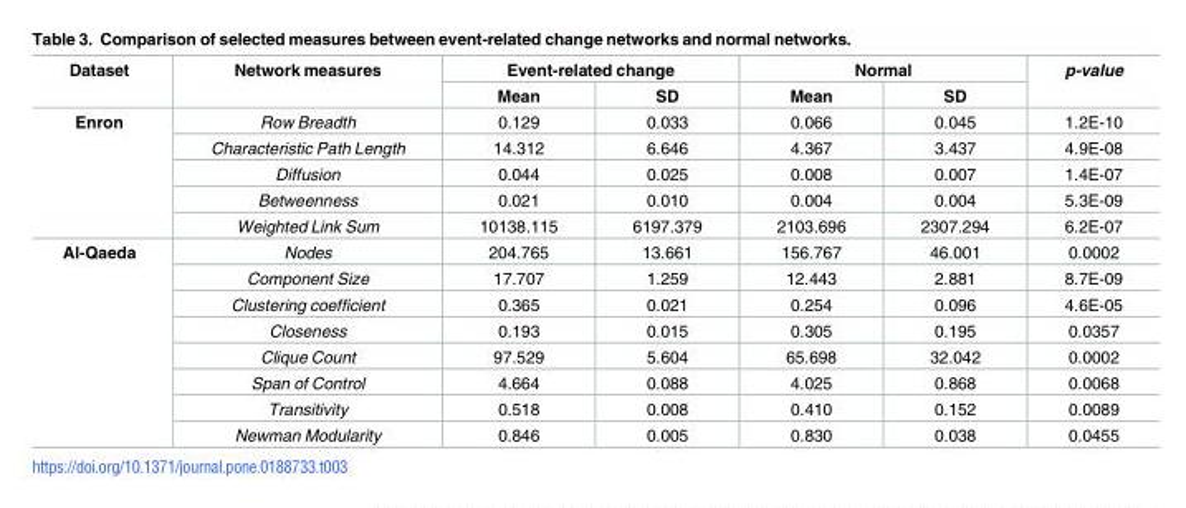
<table><thead><tr><td rowspan="2">Dataset</td><td rowspan="2">Network measures</td><td colspan="2">Event-related change</td><td colspan="2">Normal</td><td rowspan="2">p-value</td></tr><tr><td>Mean</td><td>SD</td><td>Mean</td><td>SD</td></tr></thead><tbody><tr><td rowspan="5">Enron</td><td>Row Breadth</td><td>0.129</td><td>0.033</td><td>0.066</td><td>0.045</td><td>1.2E-10</td></tr><tr><td>Characteristic Path Length</td><td>14.312</td><td>6.646</td><td>4.367</td><td>3.437</td><td>4.9E-08</td></tr><tr><td>Diffusion</td><td>0.044</td><td>0.025</td><td>0.008</td><td>0.007</td><td>1.4E-07</td></tr><tr><td>Betweenness</td><td>0.021</td><td>0.010</td><td>0.004</td><td>0.004</td><td>5.3E-09</td></tr><tr><td>Weighted Link Sum</td><td>10138.115</td><td>6197.379</td><td>2103.696</td><td>2307.294</td><td>6.2E-07</td></tr><tr><td rowspan="8">Al-Qaeda</td><td>Nodes</td><td>204.765</td><td>13.661</td><td>156.767</td><td>46.001</td><td>0.0002</td></tr><tr><td>Component Size</td><td>17.707</td><td>1.259</td><td>12.443</td><td>2.881</td><td>8.7E-09</td></tr><tr><td>Clustering coefficient</td><td>0.365</td><td>0.021</td><td>0.254</td><td>0.096</td><td>4.6E-05</td></tr><tr><td>Closeness</td><td>0.193</td><td>0.015</td><td>0.305</td><td>0.195</td><td>0.0357</td></tr><tr><td>Clique Count</td><td>97.529</td><td>5.604</td><td>65.698</td><td>32.042</td><td>0.0002</td></tr><tr><td>Span of Control</td><td>4.664</td><td>0.088</td><td>4.025</td><td>0.868</td><td>0.0068</td></tr><tr><td>Transitivity</td><td>0.518</td><td>0.008</td><td>0.410</td><td>0.152</td><td>0.0089</td></tr><tr><td>Newman Modularity</td><td>0.846</td><td>0.005</td><td>0.830</td><td>0.038</td><td>0.0455</td></tr></tbody></table>